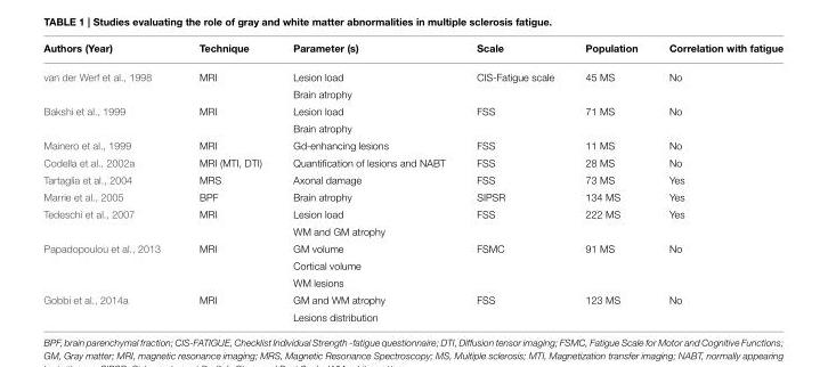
<table><thead><tr><td>Authors (Year)</td><td>Technique</td><td>Parameter (s)</td><td>Scale</td><td>Population</td><td>Correlation with fatigue</td></tr></thead><tbody><tr><td rowspan="2">van der Werf et al., 1998</td><td>MRI</td><td>Lesion load</td><td>CIS-Fatigue scale</td><td>45 MS</td><td>No</td></tr><tr><td></td><td>Brain atrophy</td><td></td><td></td><td></td></tr><tr><td rowspan="2">Bakshi et al., 1999</td><td>MRI</td><td>Lesion load</td><td>FSS</td><td>71 MS</td><td>No</td></tr><tr><td></td><td>Brain atrophy</td><td></td><td></td><td></td></tr><tr><td>Mainero et al., 1999</td><td>MRI</td><td>Gd-enhancing lesions</td><td>FSS</td><td>11 MS</td><td>No</td></tr><tr><td>Codella et al., 2002a</td><td>MRI (MTI, DTI)</td><td>Quantification of lesions and NABT</td><td>FSS</td><td>28 MS</td><td>No</td></tr><tr><td>Tartaglia et al., 2004</td><td>MRS</td><td>Axonal damage</td><td>FSS</td><td>73 MS</td><td>Yes</td></tr><tr><td>Marrie et al., 2005</td><td>BPF</td><td>Brain atrophy</td><td>SIPSR</td><td>134 MS</td><td>Yes</td></tr><tr><td rowspan="2">Tedeschi et al., 2007</td><td>MRI</td><td>Lesion load</td><td>FSS</td><td>222 MS</td><td>Yes</td></tr><tr><td></td><td>WM and GM atrophy</td><td></td><td></td><td></td></tr><tr><td rowspan="3">Papadopoulou et al., 2013</td><td>MRI</td><td>GM volume</td><td>FSMC</td><td>91 MS</td><td>No</td></tr><tr><td></td><td>Cortical volume</td><td></td><td></td><td></td></tr><tr><td></td><td>WM lesions</td><td></td><td></td><td></td></tr><tr><td rowspan="2">Gobbi et al., 2014a</td><td>MRI</td><td>GM and WM atrophy</td><td>FSS</td><td>123 MS</td><td>No</td></tr><tr><td></td><td>Lesions distribution</td><td></td><td></td><td></td></tr></tbody></table>